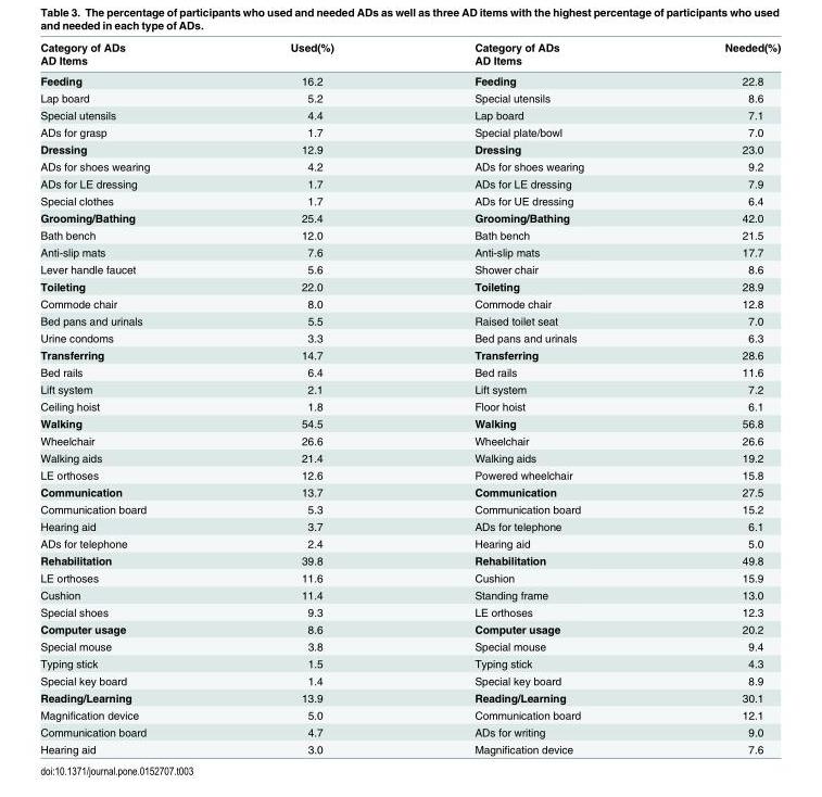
<table><thead><tr><td rowspan="2">Category of ADs AD Items</td><td rowspan="2">Used(%)</td><td rowspan="2">Category of ADs AD Items</td><td rowspan="2">Needed(%)</td></tr><tr></tr></thead><tbody><tr><td>Feeding</td><td>16.2</td><td>Feeding</td><td>22.8</td></tr><tr><td>Lap board</td><td>5.2</td><td>Special utensils</td><td>8.6</td></tr><tr><td>Special utensils</td><td>4.4</td><td>Lap board</td><td>7.1</td></tr><tr><td>ADs for grasp</td><td>1.7</td><td>Special plate/bowl</td><td>7.0</td></tr><tr><td>Dressing</td><td>12.9</td><td>Dressing</td><td>23.0</td></tr><tr><td>ADs for shoes wearing</td><td>4.2</td><td>ADs for shoes wearing</td><td>9.2</td></tr><tr><td>ADs for LE dressing</td><td>1.7</td><td>ADs for LE dressing</td><td>7.9</td></tr><tr><td>Special clothes</td><td>1.7</td><td>ADs for UE dressing</td><td>6.4</td></tr><tr><td>Grooming/Bathing</td><td>25.4</td><td>Grooming/Bathing</td><td>42.0</td></tr><tr><td>Bath bench</td><td>12.0</td><td>Bath bench</td><td>21.5</td></tr><tr><td>Anti-slip mats</td><td>7.6</td><td>Anti-slip mats</td><td>17.7</td></tr><tr><td>Lever handle faucet</td><td>5.6</td><td>Shower chair</td><td>8.6</td></tr><tr><td>Toileting</td><td>22.0</td><td>Toileting</td><td>28.9</td></tr><tr><td>Commode chair</td><td>8.0</td><td>Commode chair</td><td>12.8</td></tr><tr><td>Bed pans and urinals</td><td>5.5</td><td>Raised toilet seat</td><td>7.0</td></tr><tr><td>Urine condoms</td><td>3.3</td><td>Bed pans and urinals</td><td>6.3</td></tr><tr><td>Transferring</td><td>14.7</td><td>Transferring</td><td>28.6</td></tr><tr><td>Bed rails</td><td>6.4</td><td>Bed rails</td><td>11.6</td></tr><tr><td>Lift system</td><td>2.1</td><td>Lift system</td><td>7.2</td></tr><tr><td>Ceiling hoist</td><td>1.8</td><td>Floor hoist</td><td>6.1</td></tr><tr><td>Walking</td><td>54.5</td><td>Walking</td><td>56.8</td></tr><tr><td>Wheelchair</td><td>26.6</td><td>Wheelchair</td><td>26.6</td></tr><tr><td>Walking aids</td><td>21.4</td><td>Walking aids</td><td>19.2</td></tr><tr><td>LE orthoses</td><td>12.6</td><td>Powered wheelchair</td><td>15.8</td></tr><tr><td>Communication</td><td>13.7</td><td>Communication</td><td>27.5</td></tr><tr><td>Communication board</td><td>5.3</td><td>Communication board</td><td>15.2</td></tr><tr><td>Hearing aid</td><td>3.7</td><td>ADs for telephone</td><td>6.1</td></tr><tr><td>ADs for telephone</td><td>2.4</td><td>Hearing aid</td><td>5.0</td></tr><tr><td>Rehabilitation</td><td>39.8</td><td>Rehabilitation</td><td>49.8</td></tr><tr><td>LE orthoses</td><td>11.6</td><td>Cushion</td><td>15.9</td></tr><tr><td>Cushion</td><td>11.4</td><td>Standing frame</td><td>13.0</td></tr><tr><td>Special shoes</td><td>9.3</td><td>LE orthoses</td><td>12.3</td></tr><tr><td>Computer usage</td><td>8.6</td><td>Computer usage</td><td>20.2</td></tr><tr><td>Special mouse</td><td>3.8</td><td>Special mouse</td><td>9.4</td></tr><tr><td>Typing stick</td><td>1.5</td><td>Typing stick</td><td>4.3</td></tr><tr><td>Special key board</td><td>1.4</td><td>Special key board</td><td>8.9</td></tr><tr><td>Reading/Learning</td><td>13.9</td><td>Reading/Learning</td><td>30.1</td></tr><tr><td>Magnification device</td><td>5.0</td><td>Communication board</td><td>12.1</td></tr><tr><td>Communication board</td><td>4.7</td><td>ADs for writing</td><td>9.0</td></tr><tr><td>Hearing aid</td><td>3.0</td><td>Magnification device</td><td>7.6</td></tr></tbody></table>